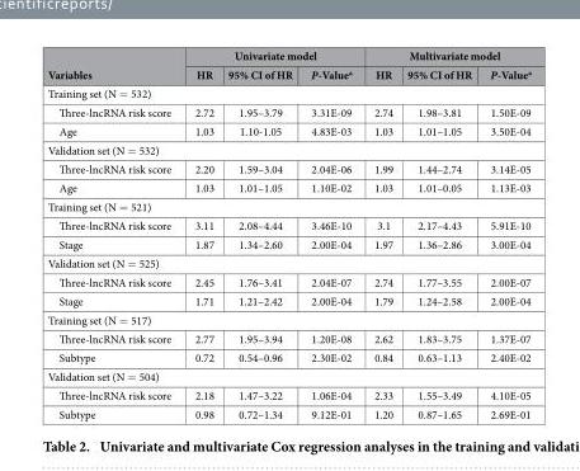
<table><thead><tr><td rowspan="2">Variables</td><td colspan="3">Univariate model</td><td colspan="3">Multivariate model</td></tr><tr><td>HR</td><td>95% CI of HR</td><td>P-Value<sup>a</sup></td><td>HR</td><td>95% CI of HR</td><td>P-Value<sup>a</sup></td></tr></thead><tbody><tr><td colspan="7">Training set (N = 532)</td></tr><tr><td>Three-lncRNA risk score</td><td>2.72</td><td>1.95–3.79</td><td>3.31E-09</td><td>2.74</td><td>1.98–3.81</td><td>1.50E-09</td></tr><tr><td>Age</td><td>1.03</td><td>1.10-1.05</td><td>4.83E-03</td><td>1.03</td><td>1.01–1.05</td><td>3.50E-04</td></tr><tr><td colspan="7">Validation set (N = 532)</td></tr><tr><td>Three-lncRNA risk score</td><td>2.20</td><td>1.59–3.04</td><td>2.04E-06</td><td>1.99</td><td>1.44–2.74</td><td>3.14E-05</td></tr><tr><td>Age</td><td>1.03</td><td>1.01–1.05</td><td>1.10E-02</td><td>1.03</td><td>1.01–0.05</td><td>1.13E-03</td></tr><tr><td colspan="7">Training set (N = 521)</td></tr><tr><td>Three-lncRNA risk score</td><td>3.11</td><td>2.08–4.44</td><td>3.46E-10</td><td>3.1</td><td>2.17–4.43</td><td>5.91E-10</td></tr><tr><td>Stage</td><td>1.87</td><td>1.34–2.60</td><td>2.00E-04</td><td>1.97</td><td>1.36–2.86</td><td>3.00E-04</td></tr><tr><td colspan="7">Validation set (N = 525)</td></tr><tr><td>Three-lncRNA risk score</td><td>2.45</td><td>1.76–3.41</td><td>2.04E-07</td><td>2.74</td><td>1.77–3.55</td><td>2.00E-07</td></tr><tr><td>Stage</td><td>1.71</td><td>1.21–2.42</td><td>2.00E-04</td><td>1.79</td><td>1.24–2.58</td><td>2.00E-04</td></tr><tr><td colspan="7">Training set (N = 517)</td></tr><tr><td>Three-lncRNA risk score</td><td>2.77</td><td>1.95–3.94</td><td>1.20E-08</td><td>2.62</td><td>1.83–3.75</td><td>1.37E-07</td></tr><tr><td>Subtype</td><td>0.72</td><td>0.54–0.96</td><td>2.30E-02</td><td>0.84</td><td>0.63–1.13</td><td>2.40E-02</td></tr><tr><td colspan="7">Validation set (N = 504)</td></tr><tr><td>Three-lncRNA risk score</td><td>2.18</td><td>1.47–3.22</td><td>1.06E-04</td><td>2.33</td><td>1.55–3.49</td><td>4.10E-05</td></tr><tr><td>Subtype</td><td>0.98</td><td>0.72–1.34</td><td>9.12E-01</td><td>1.20</td><td>0.87–1.65</td><td>2.69E-01</td></tr></tbody></table>